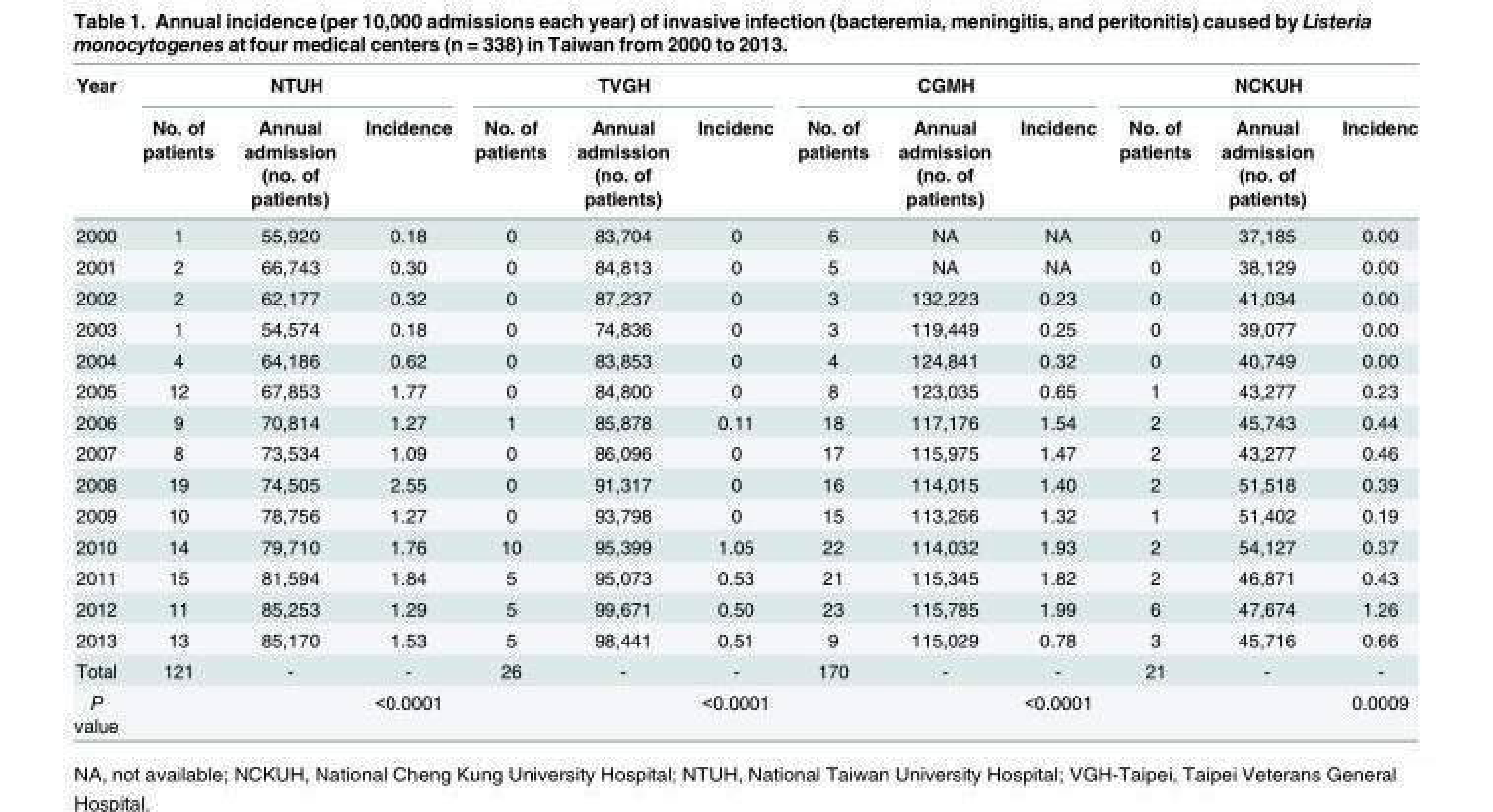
<table><thead><tr><td rowspan="2">Year</td><td colspan="3">NTUH</td><td colspan="3">TVGH</td><td colspan="3">CGMH</td><td colspan="3">NCKUH</td></tr><tr><td>No. of patients</td><td>Annual admission (no. of patients)</td><td>Incidence</td><td>No. of patients</td><td>Annual admission (no. of patients)</td><td>Incidenc</td><td>No. of patients</td><td>Annual admission (no. of patients)</td><td>Incidenc</td><td>No. of patients</td><td>Annual admission (no. of patients)</td><td>Incidenc</td></tr></thead><tbody><tr><td>2000</td><td>1</td><td>55,920</td><td>0.18</td><td>0</td><td>83,704</td><td>0</td><td>6</td><td>NA</td><td>NA</td><td>0</td><td>37,185</td><td>0.00</td></tr><tr><td>2001</td><td>2</td><td>66,743</td><td>0.30</td><td>0</td><td>84,813</td><td>0</td><td>5</td><td>NA</td><td>NA</td><td>0</td><td>38,129</td><td>0.00</td></tr><tr><td>2002</td><td>2</td><td>62,177</td><td>0.32</td><td>0</td><td>87,237</td><td>0</td><td>3</td><td>132,223</td><td>0.23</td><td>0</td><td>41,034</td><td>0.00</td></tr><tr><td>2003</td><td>1</td><td>54,574</td><td>0.18</td><td>0</td><td>74,836</td><td>0</td><td>3</td><td>119,449</td><td>0.25</td><td>0</td><td>39,077</td><td>0.00</td></tr><tr><td>2004</td><td>4</td><td>64,186</td><td>0.62</td><td>0</td><td>83,853</td><td>0</td><td>4</td><td>124,841</td><td>0.32</td><td>0</td><td>40,749</td><td>0.00</td></tr><tr><td>2005</td><td>12</td><td>67,853</td><td>1.77</td><td>0</td><td>84,800</td><td>0</td><td>8</td><td>123,035</td><td>0.65</td><td>1</td><td>43,277</td><td>0.23</td></tr><tr><td>2006</td><td>9</td><td>70,814</td><td>1.27</td><td>1</td><td>85,878</td><td>0.11</td><td>18</td><td>117,176</td><td>1.54</td><td>2</td><td>45,743</td><td>0.44</td></tr><tr><td>2007</td><td>8</td><td>73,534</td><td>1.09</td><td>0</td><td>86,096</td><td>0</td><td>17</td><td>115,975</td><td>1.47</td><td>2</td><td>43,277</td><td>0.46</td></tr><tr><td>2008</td><td>19</td><td>74,505</td><td>2.55</td><td>0</td><td>91,317</td><td>0</td><td>16</td><td>114,015</td><td>1.40</td><td>2</td><td>51,518</td><td>0.39</td></tr><tr><td>2009</td><td>10</td><td>78,756</td><td>1.27</td><td>0</td><td>93,798</td><td>0</td><td>15</td><td>113,266</td><td>1.32</td><td>1</td><td>51,402</td><td>0.19</td></tr><tr><td>2010</td><td>14</td><td>79,710</td><td>1.76</td><td>10</td><td>95,399</td><td>1.05</td><td>22</td><td>114,032</td><td>1.93</td><td>2</td><td>54,127</td><td>0.37</td></tr><tr><td>2011</td><td>15</td><td>81,594</td><td>1.84</td><td>5</td><td>95,073</td><td>0.53</td><td>21</td><td>115,345</td><td>1.82</td><td>2</td><td>46,871</td><td>0.43</td></tr><tr><td>2012</td><td>11</td><td>85,253</td><td>1.29</td><td>5</td><td>99,671</td><td>0.50</td><td>23</td><td>115,785</td><td>1.99</td><td>6</td><td>47,674</td><td>1.26</td></tr><tr><td>2013</td><td>13</td><td>85,170</td><td>1.53</td><td>5</td><td>98,441</td><td>0.51</td><td>9</td><td>115,029</td><td>0.78</td><td>3</td><td>45,716</td><td>0.66</td></tr><tr><td>Total</td><td>121</td><td>-</td><td>-</td><td>26</td><td>-</td><td>-</td><td>170</td><td>-</td><td>-</td><td>21</td><td>-</td><td>-</td></tr><tr><td>P value</td><td></td><td></td><td>&lt;0.0001</td><td></td><td></td><td>&lt;0.0001</td><td></td><td></td><td>&lt;0.0001</td><td></td><td></td><td>0.0009</td></tr></tbody></table>